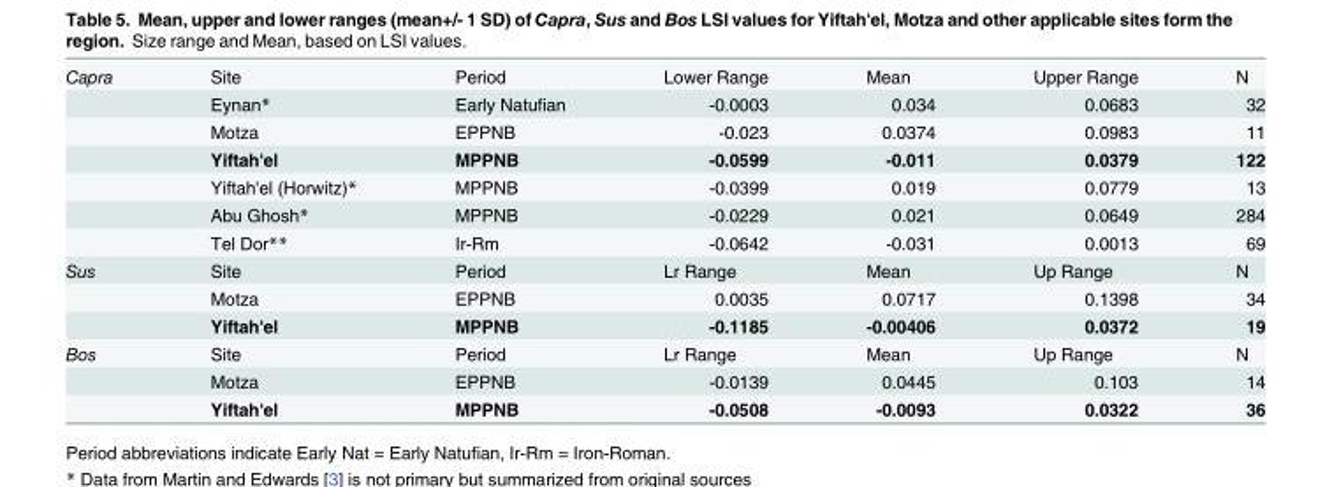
<table><tbody><tr><td rowspan="7">Capra</td><td>Site</td><td>Period</td><td>Lower Range</td><td>Mean</td><td>Upper Range</td><td>N</td></tr><tr><td>Eynan*</td><td>Early Natufian</td><td>-0.0003</td><td>0.034</td><td>0.0683</td><td>32</td></tr><tr><td>Motza</td><td>EPPNB</td><td>-0.023</td><td>0.0374</td><td>0.0983</td><td>11</td></tr><tr><td>Yiftah&#x27;el</td><td>MPPNB</td><td>-0.0599</td><td>-0.011</td><td>0.0379</td><td>122</td></tr><tr><td>Yiftah&#x27;el (Horwitz)*</td><td>MPPNB</td><td>-0.0399</td><td>0.019</td><td>0.0779</td><td>13</td></tr><tr><td>Abu Ghosh*</td><td>MPPNB</td><td>-0.0229</td><td>0.021</td><td>0.0649</td><td>284</td></tr><tr><td>Tel Dor**</td><td>Ir-Rm</td><td>-0.0642</td><td>-0.031</td><td>0.0013</td><td>69</td></tr><tr><td rowspan="3">Sus</td><td>Site</td><td>Period</td><td>Lr Range</td><td>Mean</td><td>Up Range</td><td>N</td></tr><tr><td>Motza</td><td>EPPNB</td><td>0.0035</td><td>0.0717</td><td>0.1398</td><td>34</td></tr><tr><td>Yiftah&#x27;el</td><td>MPPNB</td><td>-0.1185</td><td>-0.00406</td><td>0.0372</td><td>19</td></tr><tr><td rowspan="3">Bos</td><td>Site</td><td>Period</td><td>Lr Range</td><td>Mean</td><td>Up Range</td><td>N</td></tr><tr><td>Motza</td><td>EPPNB</td><td>-0.0139</td><td>0.0445</td><td>0.103</td><td>14</td></tr><tr><td>Yiftah&#x27;el</td><td>MPPNB</td><td>-0.0508</td><td>-0.0093</td><td>0.0322</td><td>36</td></tr></tbody></table>